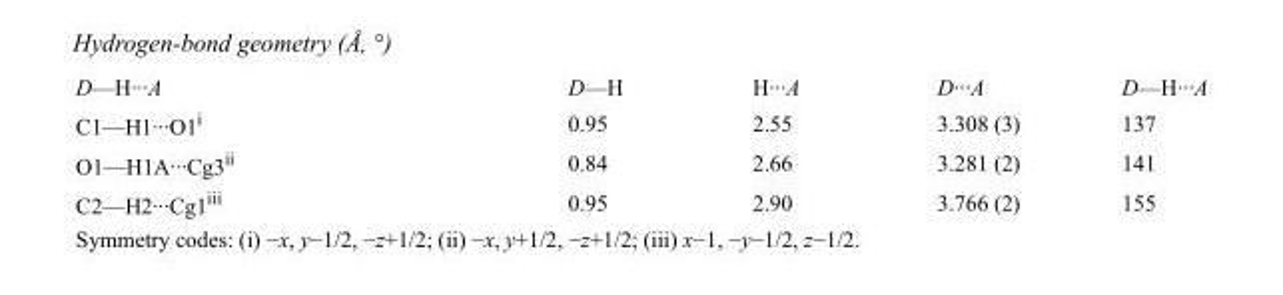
<table><tbody><tr><td>D—H···A</td><td>D—H</td><td>H···A</td><td>D···A</td><td>D—H···A</td></tr><tr><td>C1—H1···O1<sup>i</sup></td><td>0.95</td><td>2.55</td><td>3.308 (3)</td><td>137</td></tr><tr><td>O1—H1A···Cg3<sup>ii</sup></td><td>0.84</td><td>2.66</td><td>3.281 (2)</td><td>141</td></tr><tr><td>C2—H2···Cg1<sup>iii</sup></td><td>0.95</td><td>2.90</td><td>3.766 (2)</td><td>155</td></tr></tbody></table>